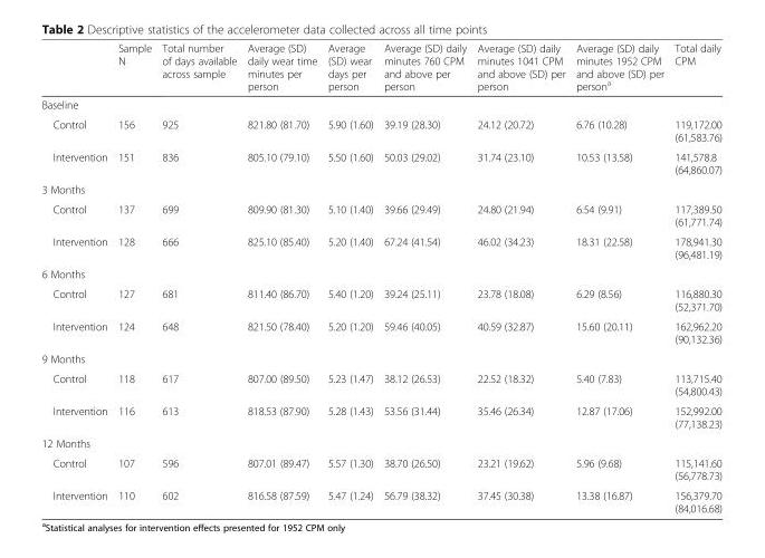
<table><thead><tr><td></td><td>Sample N</td><td>Total number of days available across sample</td><td>Average (SD) daily wear time minutes per person</td><td>Average (SD) wear days per person</td><td>Average (SD) daily minutes 760 CPM and above per person</td><td>Average (SD) daily minutes 1041 CPM and above (SD) per person</td><td>Average (SD) daily minutes 1952 CPM and above (SD) per person<sup>a</sup></td><td>Total daily CPM</td></tr></thead><tbody><tr><td colspan="9">Baseline</td></tr><tr><td>Control</td><td>156</td><td>925</td><td>821.80 (81.70)</td><td>5.90 (1.60)</td><td>39.19 (28.30)</td><td>24.12 (20.72)</td><td>6.76 (10.28)</td><td>119,172.00 (61,583.76)</td></tr><tr><td>Intervention</td><td>151</td><td>836</td><td>805.10 (79.10)</td><td>5.50 (1.60)</td><td>50.03 (29.02)</td><td>31.74 (23.10)</td><td>10.53 (13.58)</td><td>141,578.8 (64,860.07)</td></tr><tr><td colspan="9">3 Months</td></tr><tr><td>Control</td><td>137</td><td>699</td><td>809.90 (81.30)</td><td>5.10 (1.40)</td><td>39.66 (29.49)</td><td>24.80 (21.94)</td><td>6.54 (9.91)</td><td>117,389.50 (61,771.74)</td></tr><tr><td>Intervention</td><td>128</td><td>666</td><td>825.10 (85.40)</td><td>5.20 (1.40)</td><td>67.24 (41.54)</td><td>46.02 (34.23)</td><td>18.31 (22.58)</td><td>178,941.30 (96,481.19)</td></tr><tr><td colspan="9">6 Months</td></tr><tr><td>Control</td><td>127</td><td>681</td><td>811.40 (86.70)</td><td>5.40 (1.20)</td><td>39.24 (25.11)</td><td>23.78 (18.08)</td><td>6.29 (8.56)</td><td>116,880.30 (52,371.70)</td></tr><tr><td>Intervention</td><td>124</td><td>648</td><td>821.50 (78.40)</td><td>5.20 (1.20)</td><td>59.46 (40.05)</td><td>40.59 (32.87)</td><td>15.60 (20.11)</td><td>162,962.20 (90,132.36)</td></tr><tr><td colspan="9">9 Months</td></tr><tr><td>Control</td><td>118</td><td>617</td><td>807.00 (89.50)</td><td>5.23 (1.47)</td><td>38.12 (26.53)</td><td>22.52 (18.32)</td><td>5.40 (7.83)</td><td>113,715.40 (54,800.43)</td></tr><tr><td>Intervention</td><td>116</td><td>613</td><td>818.53 (87.90)</td><td>5.28 (1.43)</td><td>53.56 (31.44)</td><td>35.46 (26.34)</td><td>12.87 (17.06)</td><td>152,992.00 (77,138.23)</td></tr><tr><td colspan="9">12 Months</td></tr><tr><td>Control</td><td>107</td><td>596</td><td>807.01 (89.47)</td><td>5.57 (1.30)</td><td>38.70 (26.50)</td><td>23.21 (19.62)</td><td>5.96 (9.68)</td><td>115,141.60 (56,778.73)</td></tr><tr><td>Intervention</td><td>110</td><td>602</td><td>816.58 (87.59)</td><td>5.47 (1.24)</td><td>56.79 (38.32)</td><td>37.45 (30.38)</td><td>13.38 (16.87)</td><td>156,379.70 (84,016.68)</td></tr></tbody></table>